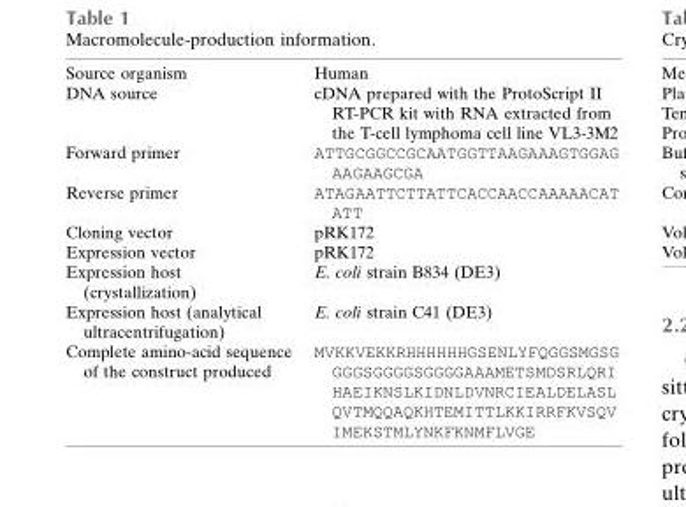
<table><tbody><tr><td>Source organism</td><td>Human</td></tr><tr><td>DNA source</td><td>cDNA prepared with the ProtoScript II RT-PCR kit with RNA extracted from the T-cell lymphoma cell line VL3-3M2</td></tr><tr><td>Forward primer</td><td>ATTGCGGCCGCAATGGTTAAGAAAGTGGAG AAGAAGCGA</td></tr><tr><td>Reverse primer</td><td>ATAGAATTCTTATTCACCAACCAAAAACAT ATT</td></tr><tr><td>Cloning vector</td><td>pRK172</td></tr><tr><td>Expression vector</td><td>pRK172</td></tr><tr><td>Expression host (crystallization)</td><td>E. coli strain B834 (DE3)</td></tr><tr><td>Expression host (analytical ultracentrifugation)</td><td>E. coli strain C41 (DE3)</td></tr><tr><td>Complete amino-acid sequence of the construct produced</td><td>MVKKVEKKRHHHHHHGSENLYFQGGSMGSG GGGSGGGGSGGGGAAAMETSMDSRLQRI HAEIKNSLKIDNLDVNRCIEALDELASL QVTMQQAQKHTEMITTLKKIRRFKVSQV IMEKSTMLYNKFKNMFLVGE</td></tr></tbody></table>